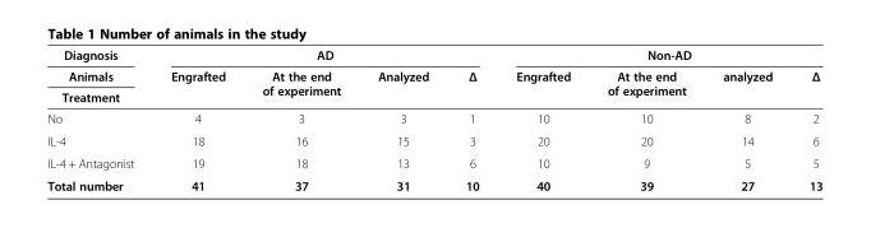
<table><thead><tr><td rowspan="3">Diagnosis Animals Treatment</td><td colspan="4">AD</td><td colspan="4">Non-AD</td></tr><tr><td rowspan="2">Engrafted</td><td rowspan="2">At the end of experiment</td><td rowspan="2">Analyzed</td><td rowspan="2">Δ</td><td rowspan="2">Engrafted</td><td rowspan="2">At the end of experiment</td><td rowspan="2">analyzed</td><td rowspan="2">Δ</td></tr><tr></tr></thead><tbody><tr><td>No</td><td>4</td><td>3</td><td>3</td><td>1</td><td>10</td><td>10</td><td>8</td><td>2</td></tr><tr><td>IL-4</td><td>18</td><td>16</td><td>15</td><td>3</td><td>20</td><td>20</td><td>14</td><td>6</td></tr><tr><td>IL-4 + Antagonist</td><td>19</td><td>18</td><td>13</td><td>6</td><td>10</td><td>9</td><td>5</td><td>5</td></tr><tr><td>Total number</td><td>41</td><td>37</td><td>31</td><td>10</td><td>40</td><td>39</td><td>27</td><td>13</td></tr></tbody></table>